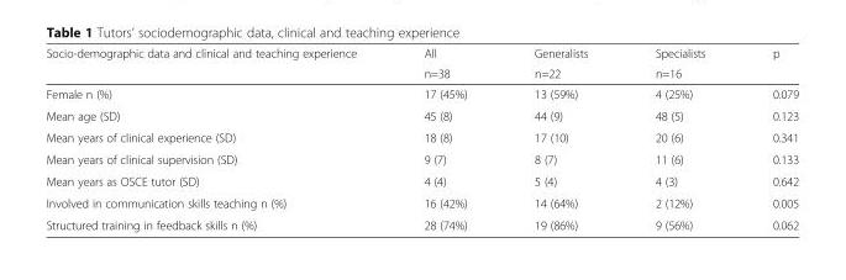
<table><thead><tr><td rowspan="2">Socio-demographic data and clinical and teaching experience</td><td rowspan="2">All n=38</td><td rowspan="2">Generalists n=22</td><td rowspan="2">Specialists n=16</td><td rowspan="2">p</td></tr><tr></tr></thead><tbody><tr><td>Female n (%)</td><td>17 (45%)</td><td>13 (59%)</td><td>4 (25%)</td><td>0.079</td></tr><tr><td>Mean age (SD)</td><td>45 (8)</td><td>44 (9)</td><td>48 (5)</td><td>0.123</td></tr><tr><td>Mean years of clinical experience (SD)</td><td>18 (8)</td><td>17 (10)</td><td>20 (6)</td><td>0.341</td></tr><tr><td>Mean years of clinical supervision (SD)</td><td>9 (7)</td><td>8 (7)</td><td>11 (6)</td><td>0.133</td></tr><tr><td>Mean years as OSCE tutor (SD)</td><td>4 (4)</td><td>5 (4)</td><td>4 (3)</td><td>0.642</td></tr><tr><td>Involved in communication skills teaching n (%)</td><td>16 (42%)</td><td>14 (64%)</td><td>2 (12%)</td><td>0.005</td></tr><tr><td>Structured training in feedback skills n (%)</td><td>28 (74%)</td><td>19 (86%)</td><td>9 (56%)</td><td>0.062</td></tr></tbody></table>